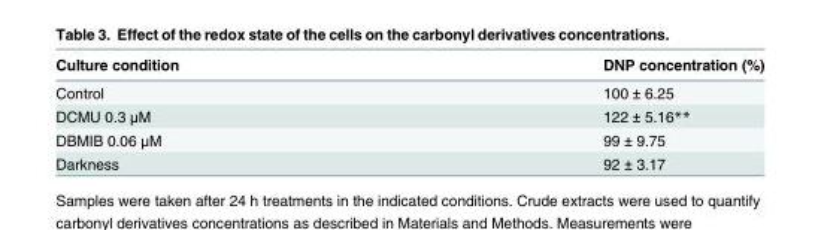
<table><thead><tr><td>Culture condition</td><td>DNP concentration (%)</td></tr></thead><tbody><tr><td>Control</td><td>100 ± 6.25</td></tr><tr><td>DCMU 0.3 μM</td><td>122 ± 5.16**</td></tr><tr><td>DBMIB 0.06 μM</td><td>99 ± 9.75</td></tr><tr><td>Darkness</td><td>92 ± 3.17</td></tr></tbody></table>